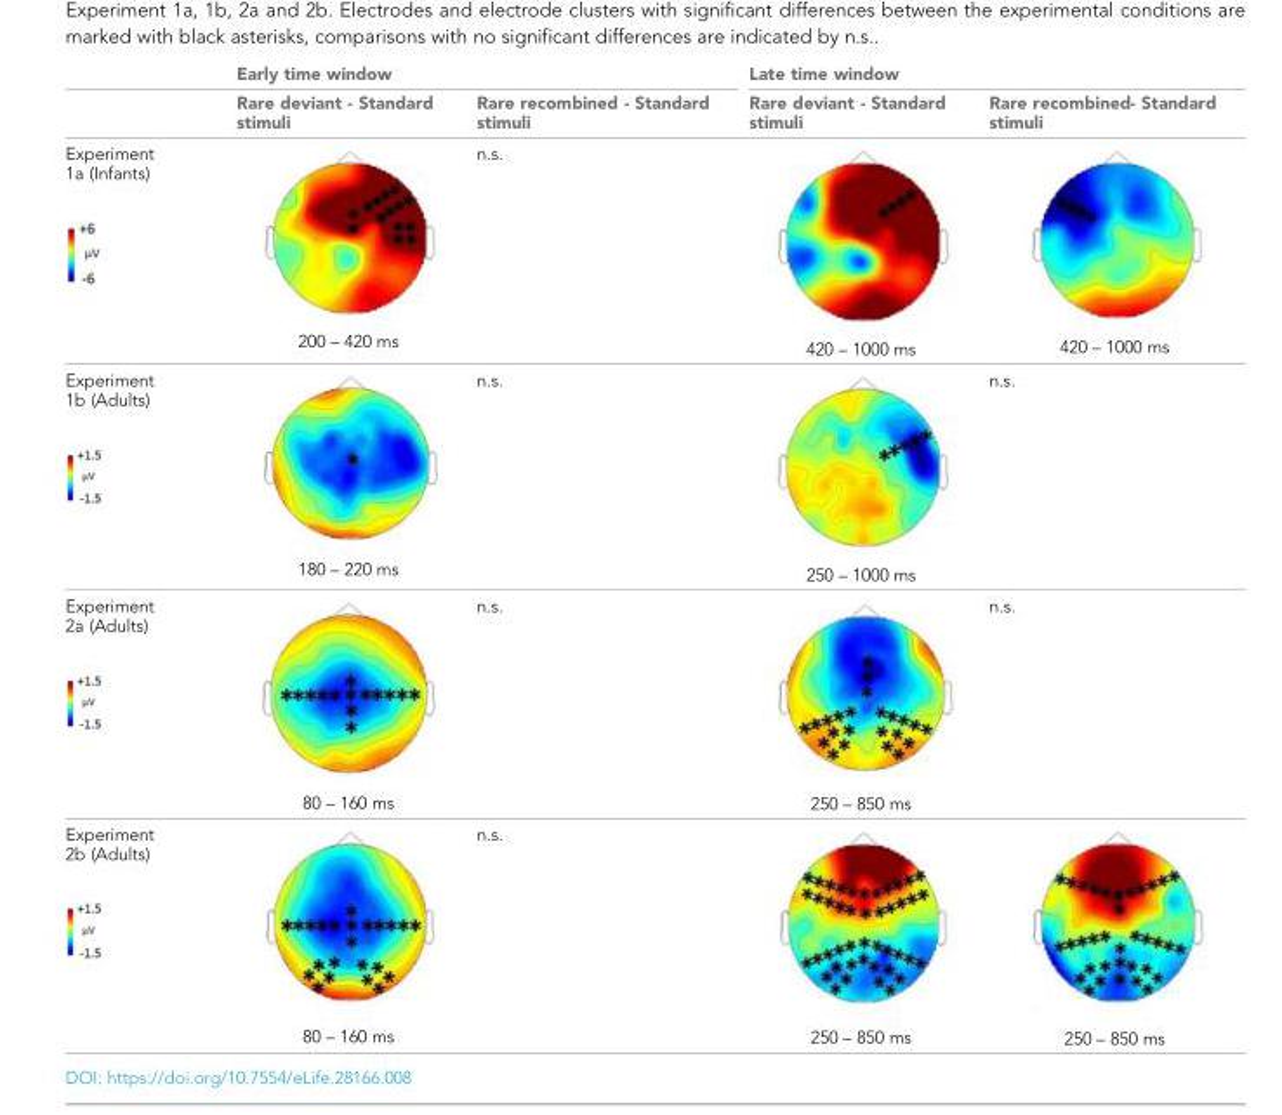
<table><thead><tr><td rowspan="2"></td><td colspan="2">Early time window</td><td colspan="2">Late time window</td></tr><tr><td>Rare deviant - Standard stimuli</td><td>Rare recombined - Standard stimuli</td><td>Rare deviant - Standard stimuli</td><td>Rare recombined- Standard stimuli</td></tr></thead><tbody><tr><td>Experiment 1a (Infants)</td><td>200 – 420 ms</td><td>n.s.</td><td>420 – 1000 ms</td><td>420 – 1000 ms</td></tr><tr><td>Experiment 1b (Adults)</td><td>180 – 220 ms</td><td>n.s.</td><td>250 – 1000 ms</td><td>n.s.</td></tr><tr><td>Experiment 2a (Adults)</td><td>80 – 160 ms</td><td>n.s.</td><td>250 – 850 ms</td><td>n.s.</td></tr><tr><td>Experiment 2b (Adults)</td><td>80 – 160 ms</td><td>n.s.</td><td>250 – 850 ms</td><td>250 – 850 ms</td></tr></tbody></table>